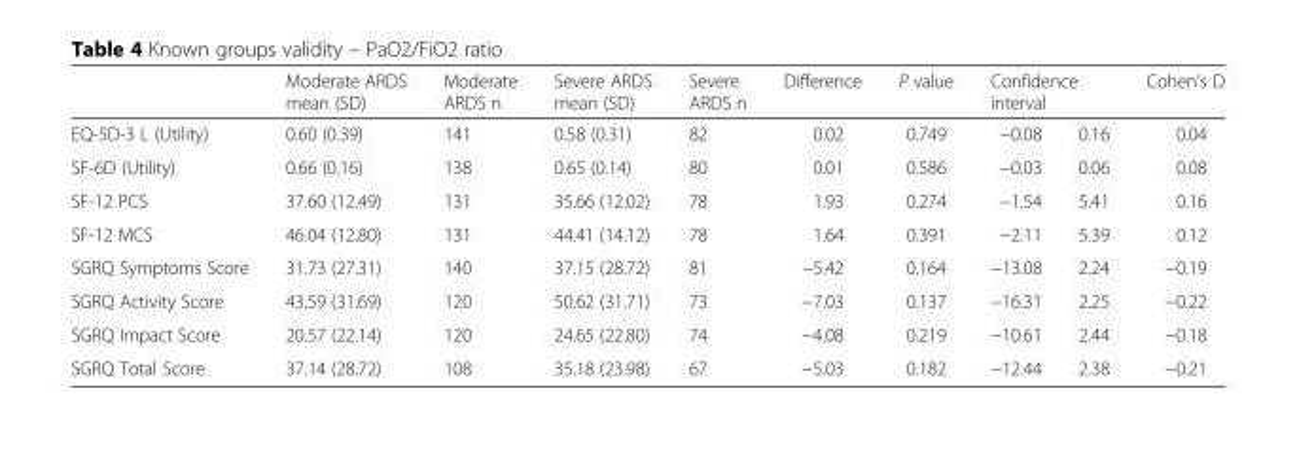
<table><thead><tr><td rowspan="2">EQ-5D-3 L (Utility)</td><td rowspan="2">Moderate ARDS mean (SD) 0.60 (0.39)</td><td rowspan="2">Moderate ARDS n 141</td><td rowspan="2">Severe ARDS mean (SD) 0.58 (0.31)</td><td rowspan="2">Severe ARDS n 82</td><td rowspan="2">Difference 0.02</td><td rowspan="2">P value 0.749</td><td colspan="2">Confidence interval</td><td rowspan="2">Cohen’s D 0.04</td></tr><tr><td>−0.08</td><td>0.16</td></tr></thead><tbody><tr><td>SF-6D (Utility)</td><td>0.66 (0.16)</td><td>138</td><td>0.65 (0.14)</td><td>80</td><td>0.01</td><td>0.586</td><td>−0.03</td><td>0.06</td><td>0.08</td></tr><tr><td>SF-12 PCS</td><td>37.60 (12.49)</td><td>131</td><td>35.66 (12.02)</td><td>78</td><td>1.93</td><td>0.274</td><td>−1.54</td><td>5.41</td><td>0.16</td></tr><tr><td>SF-12 MCS</td><td>46.04 (12.80)</td><td>131</td><td>44.41 (14.12)</td><td>78</td><td>1.64</td><td>0.391</td><td>−2.11</td><td>5.39</td><td>0.12</td></tr><tr><td>SGRQ Symptoms Score</td><td>31.73 (27.31)</td><td>140</td><td>37.15 (28.72)</td><td>81</td><td>−5.42</td><td>0.164</td><td>−13.08</td><td>2.24</td><td>−0.19</td></tr><tr><td>SGRQ Activity Score</td><td>43.59 (31.69)</td><td>120</td><td>50.62 (31.71)</td><td>73</td><td>−7.03</td><td>0.137</td><td>−16.31</td><td>2.25</td><td>−0.22</td></tr><tr><td>SGRQ Impact Score</td><td>20.57 (22.14)</td><td>120</td><td>24.65 (22.80)</td><td>74</td><td>−4.08</td><td>0.219</td><td>−10.61</td><td>2.44</td><td>−0.18</td></tr><tr><td>SGRQ Total Score</td><td>37.14 (28.72)</td><td>108</td><td>35.18 (23.98)</td><td>67</td><td>−5.03</td><td>0.182</td><td>−12.44</td><td>2.38</td><td>−0.21</td></tr></tbody></table>